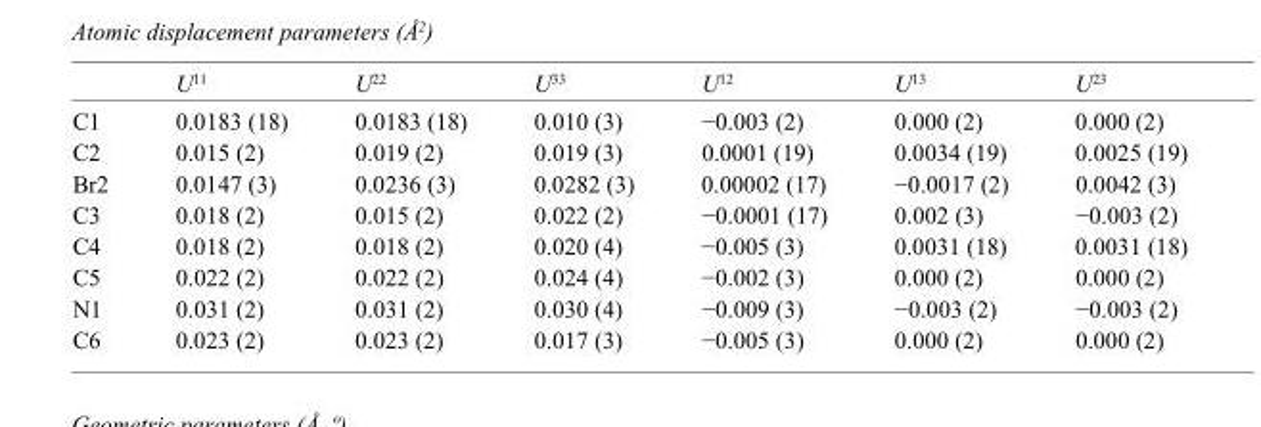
<table><thead><tr><td></td><td>U<sup>11</sup></td><td>U<sup>22</sup></td><td>U<sup>33</sup></td><td>U<sup>12</sup></td><td>U<sup>13</sup></td><td>U<sup>23</sup></td></tr></thead><tbody><tr><td>C1</td><td>0.0183 (18)</td><td>0.0183 (18)</td><td>0.010 (3)</td><td>−0.003 (2)</td><td>0.000 (2)</td><td>0.000 (2)</td></tr><tr><td>C2</td><td>0.015 (2)</td><td>0.019 (2)</td><td>0.019 (3)</td><td>0.0001 (19)</td><td>0.0034 (19)</td><td>0.0025 (19)</td></tr><tr><td>Br2</td><td>0.0147 (3)</td><td>0.0236 (3)</td><td>0.0282 (3)</td><td>0.00002 (17)</td><td>−0.0017 (2)</td><td>0.0042 (3)</td></tr><tr><td>C3</td><td>0.018 (2)</td><td>0.015 (2)</td><td>0.022 (2)</td><td>−0.0001 (17)</td><td>0.002 (3)</td><td>−0.003 (2)</td></tr><tr><td>C4</td><td>0.018 (2)</td><td>0.018 (2)</td><td>0.020 (4)</td><td>−0.005 (3)</td><td>0.0031 (18)</td><td>0.0031 (18)</td></tr><tr><td>C5</td><td>0.022 (2)</td><td>0.022 (2)</td><td>0.024 (4)</td><td>−0.002 (3)</td><td>0.000 (2)</td><td>0.000 (2)</td></tr><tr><td>N1</td><td>0.031 (2)</td><td>0.031 (2)</td><td>0.030 (4)</td><td>−0.009 (3)</td><td>−0.003 (2)</td><td>−0.003 (2)</td></tr><tr><td>C6</td><td>0.023 (2)</td><td>0.023 (2)</td><td>0.017 (3)</td><td>−0.005 (3)</td><td>0.000 (2)</td><td>0.000 (2)</td></tr></tbody></table>